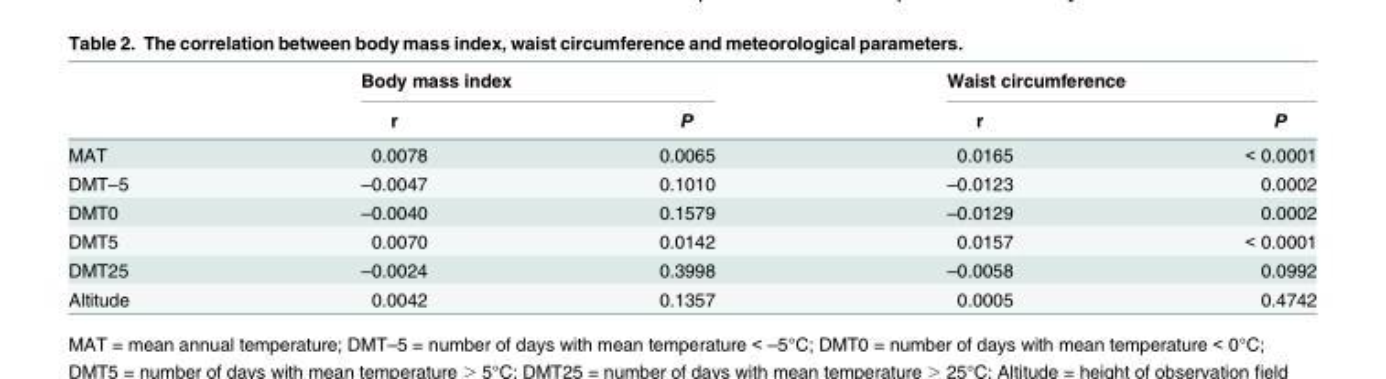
<table><thead><tr><td rowspan="2"></td><td colspan="2">Body mass index</td><td colspan="2">Waist circumference</td></tr><tr><td>r</td><td>P</td><td>r</td><td>P</td></tr></thead><tbody><tr><td>MAT</td><td>0.0078</td><td>0.0065</td><td>0.0165</td><td>&lt; 0.0001</td></tr><tr><td>DMT–5</td><td>–0.0047</td><td>0.1010</td><td>–0.0123</td><td>0.0002</td></tr><tr><td>DMT0</td><td>–0.0040</td><td>0.1579</td><td>–0.0129</td><td>0.0002</td></tr><tr><td>DMT5</td><td>0.0070</td><td>0.0142</td><td>0.0157</td><td>&lt; 0.0001</td></tr><tr><td>DMT25</td><td>–0.0024</td><td>0.3998</td><td>–0.0058</td><td>0.0992</td></tr><tr><td>Altitude</td><td>0.0042</td><td>0.1357</td><td>0.0005</td><td>0.4742</td></tr></tbody></table>